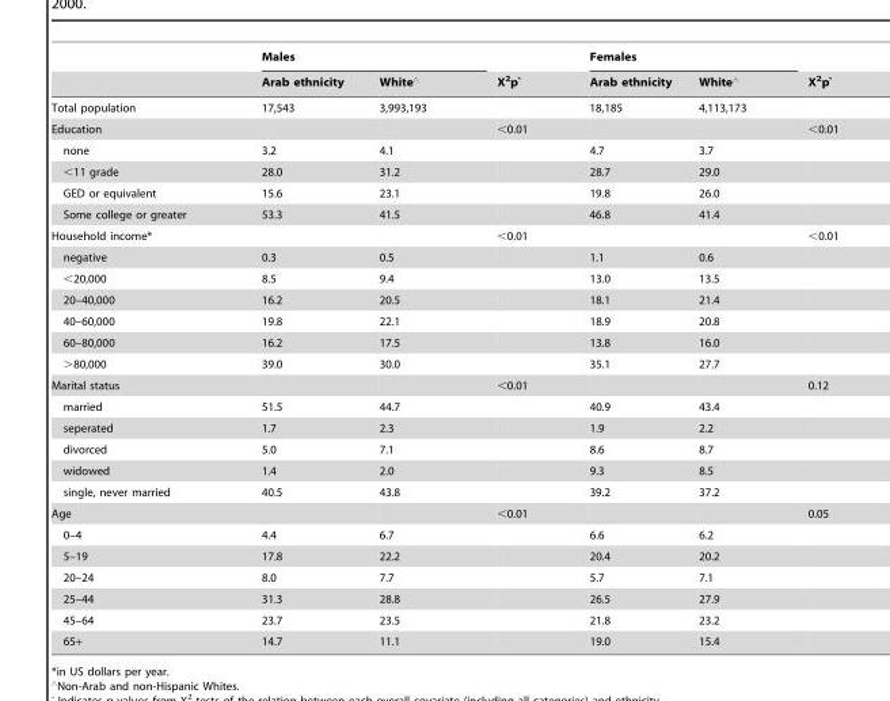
<table><thead><tr><td rowspan="2"></td><td colspan="2">Males</td><td rowspan="2">X<sup>2</sup>p‵</td><td colspan="2">Females</td><td rowspan="2">X<sup>2</sup>p‵</td></tr><tr><td>Arab ethnicity</td><td>White‘</td><td>Arab ethnicity</td><td>White‘</td></tr></thead><tbody><tr><td>Total population</td><td>17,543</td><td>3,993,193</td><td></td><td>18,185</td><td>4,113,173</td><td></td></tr><tr><td>Education</td><td></td><td></td><td>&lt;0.01</td><td></td><td></td><td>&lt;0.01</td></tr><tr><td>none</td><td>3.2</td><td>4.1</td><td></td><td>4.7</td><td>3.7</td><td></td></tr><tr><td>&lt;11 grade</td><td>28.0</td><td>31.2</td><td></td><td>28.7</td><td>29.0</td><td></td></tr><tr><td>GED or equivalent</td><td>15.6</td><td>23.1</td><td></td><td>19.8</td><td>26.0</td><td></td></tr><tr><td>Some college or greater</td><td>53.3</td><td>41.5</td><td></td><td>46.8</td><td>41.4</td><td></td></tr><tr><td>Household income*</td><td></td><td></td><td>&lt;0.01</td><td></td><td></td><td>&lt;0.01</td></tr><tr><td>negative</td><td>0.3</td><td>0.5</td><td></td><td>1.1</td><td>0.6</td><td></td></tr><tr><td>&lt;20,000</td><td>8.5</td><td>9.4</td><td></td><td>13.0</td><td>13.5</td><td></td></tr><tr><td>20–40,000</td><td>16.2</td><td>20.5</td><td></td><td>18.1</td><td>21.4</td><td></td></tr><tr><td>40–60,000</td><td>19.8</td><td>22.1</td><td></td><td>18.9</td><td>20.8</td><td></td></tr><tr><td>60–80,000</td><td>16.2</td><td>17.5</td><td></td><td>13.8</td><td>16.0</td><td></td></tr><tr><td>&gt;80,000</td><td>39.0</td><td>30.0</td><td></td><td>35.1</td><td>27.7</td><td></td></tr><tr><td>Marital status</td><td></td><td></td><td>&lt;0.01</td><td></td><td></td><td>0.12</td></tr><tr><td>married</td><td>51.5</td><td>44.7</td><td></td><td>40.9</td><td>43.4</td><td></td></tr><tr><td>seperated</td><td>1.7</td><td>2.3</td><td></td><td>1.9</td><td>2.2</td><td></td></tr><tr><td>divorced</td><td>5.0</td><td>7.1</td><td></td><td>8.6</td><td>8.7</td><td></td></tr><tr><td>widowed</td><td>1.4</td><td>2.0</td><td></td><td>9.3</td><td>8.5</td><td></td></tr><tr><td>single, never married</td><td>40.5</td><td>43.8</td><td></td><td>39.2</td><td>37.2</td><td></td></tr><tr><td>Age</td><td></td><td></td><td>&lt;0.01</td><td></td><td></td><td>0.05</td></tr><tr><td>0–4</td><td>4.4</td><td>6.7</td><td></td><td>6.6</td><td>6.2</td><td></td></tr><tr><td>5–19</td><td>17.8</td><td>22.2</td><td></td><td>20.4</td><td>20.2</td><td></td></tr><tr><td>20–24</td><td>8.0</td><td>7.7</td><td></td><td>5.7</td><td>7.1</td><td></td></tr><tr><td>25–44</td><td>31.3</td><td>28.8</td><td></td><td>26.5</td><td>27.9</td><td></td></tr><tr><td>45–64</td><td>23.7</td><td>23.5</td><td></td><td>21.8</td><td>23.2</td><td></td></tr><tr><td>65+</td><td>14.7</td><td>11.1</td><td></td><td>19.0</td><td>15.4</td><td></td></tr></tbody></table>